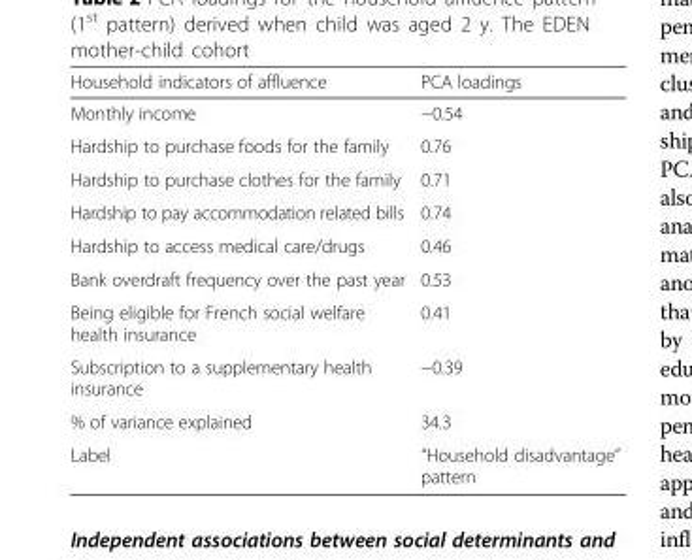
<table><thead><tr><td>Household indicators of affluence</td><td>PCA loadings</td></tr></thead><tbody><tr><td>Monthly income</td><td>−0.54</td></tr><tr><td>Hardship to purchase foods for the family</td><td>0.76</td></tr><tr><td>Hardship to purchase clothes for the family</td><td>0.71</td></tr><tr><td>Hardship to pay accommodation related bills</td><td>0.74</td></tr><tr><td>Hardship to access medical care/drugs</td><td>0.46</td></tr><tr><td>Bank overdraft frequency over the past year</td><td>0.53</td></tr><tr><td>Being eligible for French social welfare health insurance</td><td>0.41</td></tr><tr><td>Subscription to a supplementary health insurance</td><td>−0.39</td></tr><tr><td>% of variance explained</td><td>34.3</td></tr><tr><td>Label</td><td>“Household disadvantage” pattern</td></tr></tbody></table>